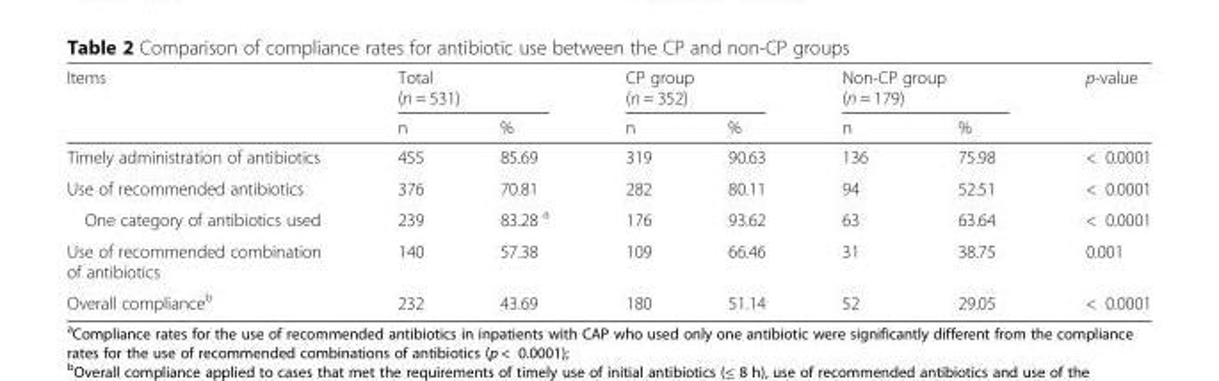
<table><thead><tr><td rowspan="2">Items</td><td colspan="2">Total (n = 531)</td><td colspan="2">CP group (n = 352)</td><td colspan="2">Non-CP group (n = 179)</td><td rowspan="2">p-value</td></tr><tr><td>n</td><td>%</td><td>n</td><td>%</td><td>n</td><td>%</td></tr></thead><tbody><tr><td>Timely administration of antibiotics</td><td>455</td><td>85.69</td><td>319</td><td>90.63</td><td>136</td><td>75.98</td><td>&lt; 0.0001</td></tr><tr><td>Use of recommended antibiotics</td><td>376</td><td>70.81</td><td>282</td><td>80.11</td><td>94</td><td>52.51</td><td>&lt; 0.0001</td></tr><tr><td>One category of antibiotics used</td><td>239</td><td>83.28 <sup>a</sup></td><td>176</td><td>93.62</td><td>63</td><td>63.64</td><td>&lt; 0.0001</td></tr><tr><td>Use of recommended combination of antibiotics</td><td>140</td><td>57.38</td><td>109</td><td>66.46</td><td>31</td><td>38.75</td><td>0.001</td></tr><tr><td>Overall compliance<sup>b</sup></td><td>232</td><td>43.69</td><td>180</td><td>51.14</td><td>52</td><td>29.05</td><td>&lt; 0.0001</td></tr></tbody></table>